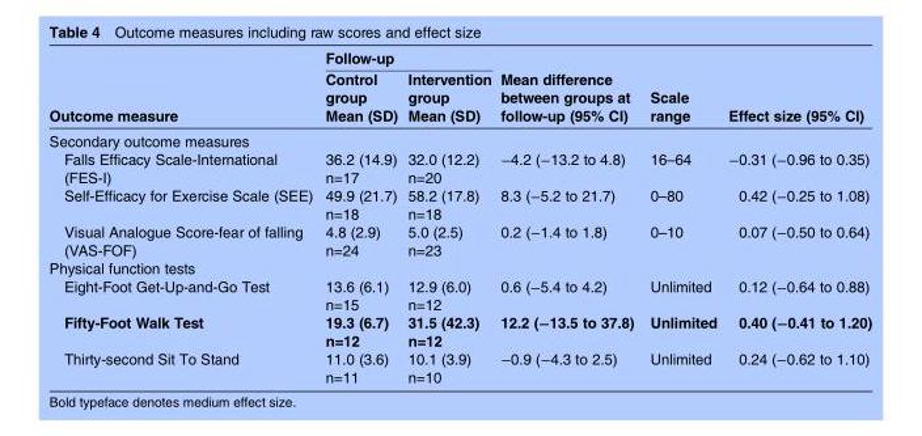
<table><thead><tr><td rowspan="2">Outcome measure</td><td colspan="2">Follow-up</td><td rowspan="2">Mean difference between groups at follow-up (95% CI)</td><td rowspan="2">Scale range</td><td rowspan="2">Effect size (95% CI)</td></tr><tr><td>Control group Mean (SD)</td><td>Intervention group Mean (SD)</td></tr></thead><tbody><tr><td colspan="6">Secondary outcome measures</td></tr><tr><td>Falls Efficacy Scale-International (FES-I)</td><td>36.2 (14.9) n=17</td><td>32.0 (12.2) n=20</td><td>−4.2 (−13.2 to 4.8)</td><td>16–64</td><td>−0.31 (−0.96 to 0.35)</td></tr><tr><td>Self-Efficacy for Exercise Scale (SEE)</td><td>49.9 (21.7) n=18</td><td>58.2 (17.8) n=18</td><td>8.3 (−5.2 to 21.7)</td><td>0–80</td><td>0.42 (−0.25 to 1.08)</td></tr><tr><td>Visual Analogue Score-fear of falling (VAS-FOF)</td><td>4.8 (2.9) n=24</td><td>5.0 (2.5) n=23</td><td>0.2 (−1.4 to 1.8)</td><td>0–10</td><td>0.07 (−0.50 to 0.64)</td></tr><tr><td colspan="6">Physical function tests</td></tr><tr><td>Eight-Foot Get-Up-and-Go Test</td><td>13.6 (6.1) n=15</td><td>12.9 (6.0) n=12</td><td>0.6 (−5.4 to 4.2)</td><td>Unlimited</td><td>0.12 (−0.64 to 0.88)</td></tr><tr><td>Fifty-Foot Walk Test</td><td>19.3 (6.7) n=12</td><td>31.5 (42.3) n=12</td><td>12.2 (−13.5 to 37.8)</td><td>Unlimited</td><td>0.40 (−0.41 to 1.20)</td></tr><tr><td>Thirty-second Sit To Stand</td><td>11.0 (3.6) n=11</td><td>10.1 (3.9) n=10</td><td>−0.9 (−4.3 to 2.5)</td><td>Unlimited</td><td>0.24 (−0.62 to 1.10)</td></tr></tbody></table>